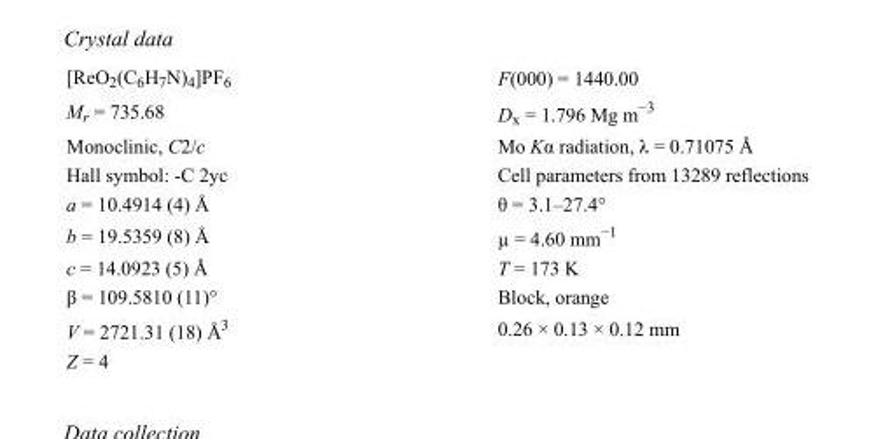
<table><tbody><tr><td>[ReO<sub>2</sub>(C<sub>6</sub>H<sub>7</sub>N)<sub>4</sub>]PF<sub>6</sub></td><td>F(000) = 1440.00</td></tr><tr><td>M<sub>r</sub> = 735.68</td><td>D<sub>x</sub> = 1.796 Mg m<sup>−3</sup></td></tr><tr><td>Monoclinic, C2/c</td><td>Mo Kα radiation, λ = 0.71075 Å</td></tr><tr><td>Hall symbol: -C 2yc</td><td>Cell parameters from 13289 reflections</td></tr><tr><td>a = 10.4914 (4) Å</td><td>θ = 3.1–27.4°</td></tr><tr><td>b = 19.5359 (8) Å</td><td>µ = 4.60 mm<sup>−1</sup></td></tr><tr><td>c = 14.0923 (5) Å</td><td>T = 173 K</td></tr><tr><td>β = 109.5810 (11)°</td><td>Block, orange</td></tr><tr><td>V = 2721.31 (18) Å<sup>3</sup></td><td>0.26 × 0.13 × 0.12 mm</td></tr><tr><td>Z = 4</td><td></td></tr></tbody></table>